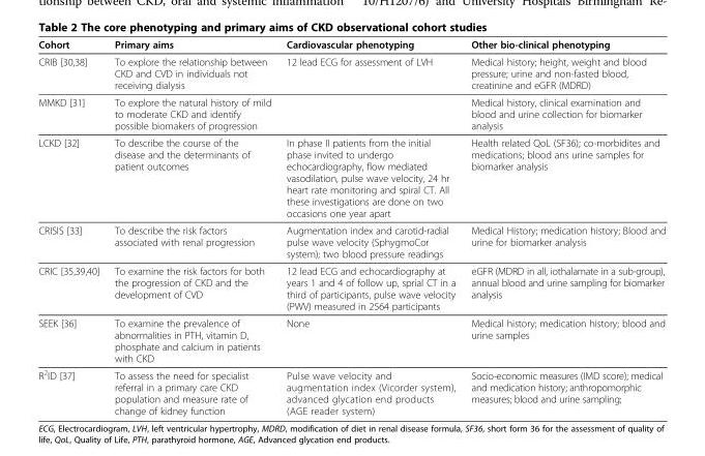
<table><thead><tr><td>Cohort</td><td>Primary aims</td><td>Cardiovascular phenotyping</td><td>Other bio-clinical phenotyping</td></tr></thead><tbody><tr><td>CRIB [30,38]</td><td>To explore the relationship between CKD and CVD in individuals not receiving dialysis</td><td>12 lead ECG for assessment of LVH</td><td>Medical history; height, weight and blood pressure; urine and non-fasted blood, creatinine and eGFR (MDRD)</td></tr><tr><td>MMKD [31]</td><td>To explore the natural history of mild to moderate CKD and identify possible biomakers of progression</td><td></td><td>Medical history, clinical examination and blood and urine collection for biomarker analysis</td></tr><tr><td>LCKD [32]</td><td>To describe the course of the disease and the determinants of patient outcomes</td><td>In phase II patients from the initial phase invited to undergo echocardiography, flow mediated vasodilation, pulse wave velocity, 24 hr heart rate monitoring and spiral CT. All these investigations are done on two occasions one year apart</td><td>Health related QoL (SF36); co-morbidites and medications; blood ans urine samples for biomarker analysis</td></tr><tr><td>CRISIS [33]</td><td>To describe the risk factors associated with renal progression</td><td>Augmentation index and carotid-radial pulse wave velocity (SphygmoCor system); two blood pressure readings</td><td>Medical History; medication history; Blood and urine for biomarker analysis</td></tr><tr><td>CRIC [35,39,40]</td><td>To examine the risk factors for both the progression of CKD and the development of CVD</td><td>12 lead ECG and echocardiography at years 1 and 4 of follow up, sprial CT in a third of participants, pulse wave velocity (PWV) measured in 2564 participants</td><td>eGFR (MDRD in all, iothalamate in a sub-group), annual blood and urine sampling for biomarker analysis</td></tr><tr><td>SEEK [36]</td><td>To examine the prevalence of abnormalities in PTH, vitamin D, phosphate and calcium in patients with CKD</td><td>None</td><td>Medical history; medication history; blood and urine samples</td></tr><tr><td>R<sup>2</sup>ID [37]</td><td>To assess the need for specialist referral in a primary care CKD population and measure rate of change of kidney function</td><td>Pulse wave velocity and augmentation index (Vicorder system), advanced glycation end products (AGE reader system)</td><td>Socio-economic measures (IMD score); medical and medication history; anthropomorphic measures; blood and urine sampling;</td></tr></tbody></table>